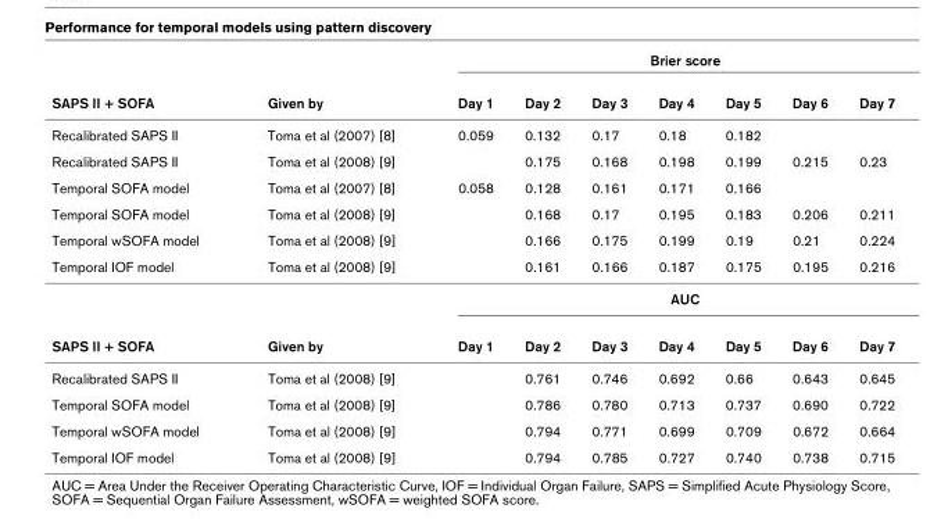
<table><thead><tr><td rowspan="2">SAPS II + SOFA</td><td rowspan="2">Given by</td><td colspan="7">Brier score</td></tr><tr><td>Day 1</td><td>Day 2</td><td>Day 3</td><td>Day 4</td><td>Day 5</td><td>Day 6</td><td>Day 7</td></tr></thead><tbody><tr><td>Recalibrated SAPS II</td><td>Toma et al (2007) [8]</td><td>0.059</td><td>0.132</td><td>0.17</td><td>0.18</td><td>0.182</td><td></td><td></td></tr><tr><td>Recalibrated SAPS II</td><td>Toma et al (2008) [9]</td><td></td><td>0.175</td><td>0.168</td><td>0.198</td><td>0.199</td><td>0.215</td><td>0.23</td></tr><tr><td>Temporal SOFA model</td><td>Toma et al (2007) [8]</td><td>0.058</td><td>0.128</td><td>0.161</td><td>0.171</td><td>0.166</td><td></td><td></td></tr><tr><td>Temporal SOFA model</td><td>Toma et al (2008) [9]</td><td></td><td>0.168</td><td>0.17</td><td>0.195</td><td>0.183</td><td>0.206</td><td>0.211</td></tr><tr><td>Temporal wSOFA model</td><td>Toma et al (2008) [9]</td><td></td><td>0.166</td><td>0.175</td><td>0.199</td><td>0.19</td><td>0.21</td><td>0.224</td></tr><tr><td rowspan="2">Temporal IOF model</td><td>Toma et al (2008) [9]</td><td></td><td>0.161</td><td>0.166</td><td>0.187</td><td>0.175</td><td>0.195</td><td>0.216</td></tr><tr><td></td><td colspan="7">AUC</td></tr><tr><td>SAPS II + SOFA</td><td>Given by</td><td>Day 1</td><td>Day 2</td><td>Day 3</td><td>Day 4</td><td>Day 5</td><td>Day 6</td><td>Day 7</td></tr><tr><td>Recalibrated SAPS II</td><td>Toma et al (2008) [9]</td><td></td><td>0.761</td><td>0.746</td><td>0.692</td><td>0.66</td><td>0.643</td><td>0.645</td></tr><tr><td>Temporal SOFA model</td><td>Toma et al (2008) [9]</td><td></td><td>0.786</td><td>0.780</td><td>0.713</td><td>0.737</td><td>0.690</td><td>0.722</td></tr><tr><td>Temporal wSOFA model</td><td>Toma et al (2008) [9]</td><td></td><td>0.794</td><td>0.771</td><td>0.699</td><td>0.709</td><td>0.672</td><td>0.664</td></tr><tr><td>Temporal IOF model</td><td>Toma et al (2008) [9]</td><td></td><td>0.794</td><td>0.785</td><td>0.727</td><td>0.740</td><td>0.738</td><td>0.715</td></tr></tbody></table>